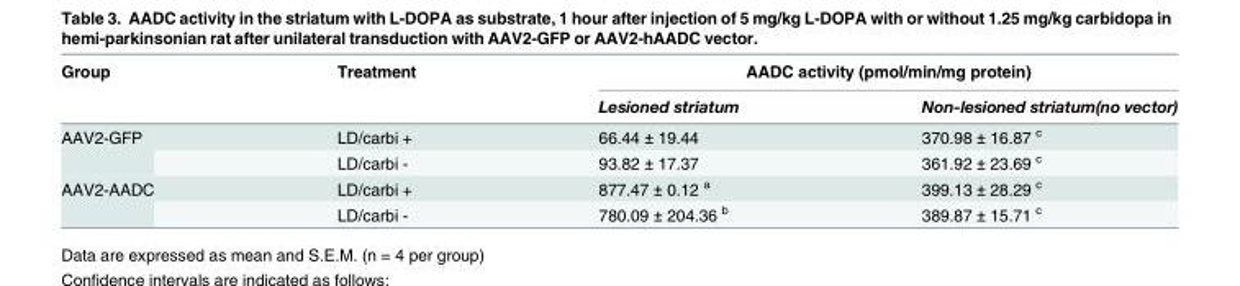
<table><thead><tr><td rowspan="2">Group</td><td rowspan="2">Treatment</td><td colspan="2">AADC activity (pmol/min/mg protein)</td></tr><tr><td>Lesioned striatum</td><td>Non-lesioned striatum(no vector)</td></tr></thead><tbody><tr><td rowspan="2">AAV2-GFP</td><td>LD/carbi +</td><td>66.44 ± 19.44</td><td>370.98 ± 16.87 <sup>c</sup></td></tr><tr><td>LD/carbi -</td><td>93.82 ± 17.37</td><td>361.92 ± 23.69 <sup>c</sup></td></tr><tr><td rowspan="2">AAV2-AADC</td><td>LD/carbi +</td><td>877.47 ± 0.12 <sup>a</sup></td><td>399.13 ± 28.29 <sup>c</sup></td></tr><tr><td>LD/carbi -</td><td>780.09 ± 204.36 <sup>b</sup></td><td>389.87 ± 15.71 <sup>c</sup></td></tr></tbody></table>